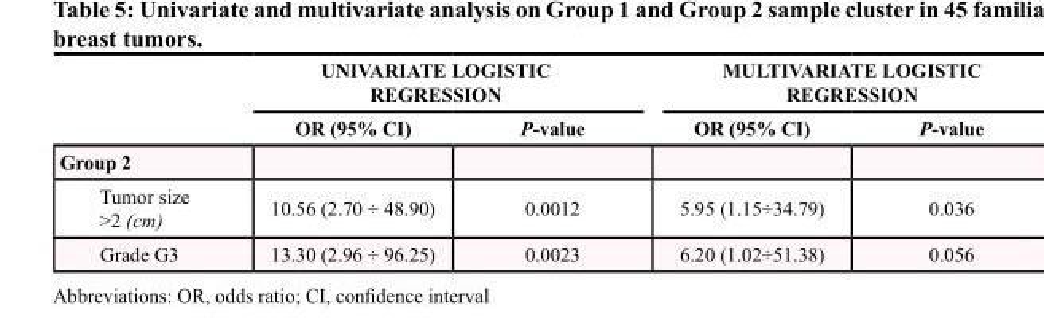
<table><thead><tr><td rowspan="2"></td><td colspan="2">UNIVARIATE LOGISTIC REGRESSION</td><td colspan="2">MULTIVARIATE LOGISTIC REGRESSION</td></tr><tr><td>OR (95% CI)</td><td>P-value</td><td>OR (95% CI)</td><td>P-value</td></tr></thead><tbody><tr><td colspan="5">Group 2</td></tr><tr><td>Tumor size &gt;2 (cm)</td><td>10.56 (2.70 ÷ 48.90)</td><td>0.0012</td><td>5.95 (1.15÷34.79)</td><td>0.036</td></tr><tr><td>Grade G3</td><td>13.30 (2.96 ÷ 96.25)</td><td>0.0023</td><td>6.20 (1.02÷51.38)</td><td>0.056</td></tr></tbody></table>